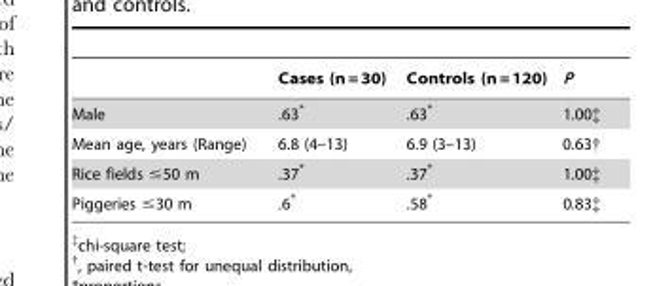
<table><thead><tr><td></td><td>Cases (n = 30)</td><td>Controls (n = 120)</td><td>P</td></tr></thead><tbody><tr><td>Male</td><td>.63*</td><td>.63*</td><td>1.00‡</td></tr><tr><td>Mean age, years (Range)</td><td>6.8 (4–13)</td><td>6.9 (3–13)</td><td>0.63†</td></tr><tr><td>Rice fields ≤50 m</td><td>.37*</td><td>.37*</td><td>1.00‡</td></tr><tr><td>Piggeries ≤30 m</td><td>.6*</td><td>.58*</td><td>0.83‡</td></tr></tbody></table>